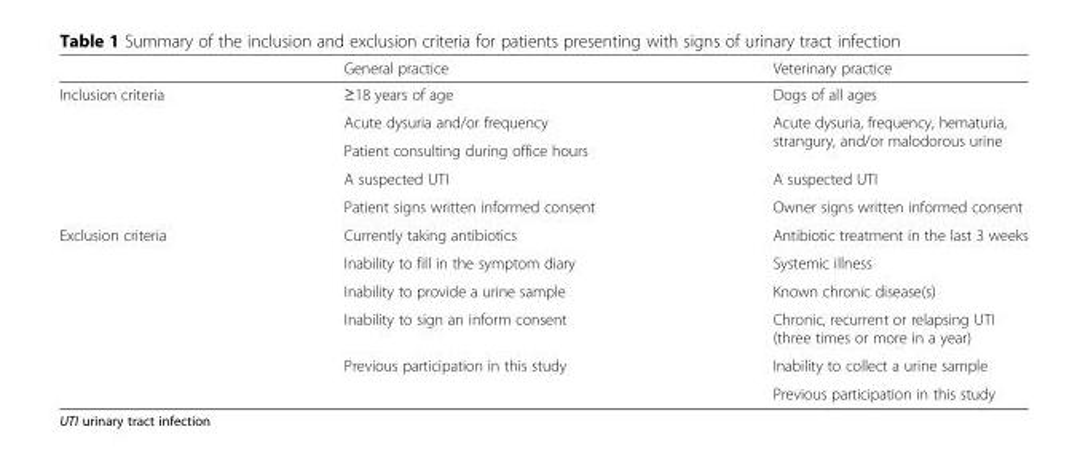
<table><thead><tr><td></td><td>General practice</td><td>Veterinary practice</td></tr></thead><tbody><tr><td rowspan="5">Inclusion criteria</td><td>≥18 years of age</td><td>Dogs of all ages</td></tr><tr><td>Acute dysuria and/or frequency</td><td rowspan="2">Acute dysuria, frequency, hematuria, strangury, and/or malodorous urine</td></tr><tr><td>Patient consulting during office hours</td></tr><tr><td>A suspected UTI</td><td>A suspected UTI</td></tr><tr><td>Patient signs written informed consent</td><td>Owner signs written informed consent</td></tr><tr><td rowspan="6">Exclusion criteria</td><td>Currently taking antibiotics</td><td>Antibiotic treatment in the last 3 weeks</td></tr><tr><td>Inability to fill in the symptom diary</td><td>Systemic illness</td></tr><tr><td>Inability to provide a urine sample</td><td>Known chronic disease(s)</td></tr><tr><td>Inability to sign an inform consent</td><td>Chronic, recurrent or relapsing UTI (three times or more in a year)</td></tr><tr><td rowspan="2">Previous participation in this study</td><td>Inability to collect a urine sample</td></tr><tr><td>Previous participation in this study</td></tr></tbody></table>